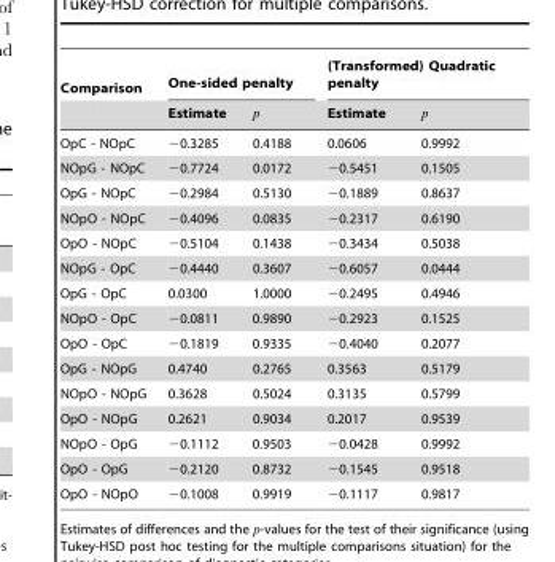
<table><thead><tr><td rowspan="2">Comparison</td><td colspan="2">One-sided penalty</td><td colspan="2">(Transformed) Quadratic penalty</td></tr><tr><td>Estimate</td><td>p</td><td>Estimate</td><td>p</td></tr></thead><tbody><tr><td>OpC - NOpC</td><td>−0.3285</td><td>0.4188</td><td>0.0606</td><td>0.9992</td></tr><tr><td>NOpG - NOpC</td><td>−0.7724</td><td>0.0172</td><td>−0.5451</td><td>0.1505</td></tr><tr><td>OpG - NOpC</td><td>−0.2984</td><td>0.5130</td><td>−0.1889</td><td>0.8637</td></tr><tr><td>NOpO - NOpC</td><td>−0.4096</td><td>0.0835</td><td>−0.2317</td><td>0.6190</td></tr><tr><td>OpO - NOpC</td><td>−0.5104</td><td>0.1438</td><td>−0.3434</td><td>0.5038</td></tr><tr><td>NOpG - OpC</td><td>−0.4440</td><td>0.3607</td><td>−0.6057</td><td>0.0444</td></tr><tr><td>OpG - OpC</td><td>0.0300</td><td>1.0000</td><td>−0.2495</td><td>0.4946</td></tr><tr><td>NOpO - OpC</td><td>−0.0811</td><td>0.9890</td><td>−0.2923</td><td>0.1525</td></tr><tr><td>OpO - OpC</td><td>−0.1819</td><td>0.9335</td><td>−0.4040</td><td>0.2077</td></tr><tr><td>OpG - NOpG</td><td>0.4740</td><td>0.2765</td><td>0.3563</td><td>0.5179</td></tr><tr><td>NOpO - NOpG</td><td>0.3628</td><td>0.5024</td><td>0.3135</td><td>0.5799</td></tr><tr><td>OpO - NOpG</td><td>0.2621</td><td>0.9034</td><td>0.2017</td><td>0.9539</td></tr><tr><td>NOpO - OpG</td><td>−0.1112</td><td>0.9503</td><td>−0.0428</td><td>0.9992</td></tr><tr><td>OpO - OpG</td><td>−0.2120</td><td>0.8732</td><td>−0.1545</td><td>0.9518</td></tr><tr><td>OpO - NOpO</td><td>−0.1008</td><td>0.9919</td><td>−0.1117</td><td>0.9817</td></tr></tbody></table>